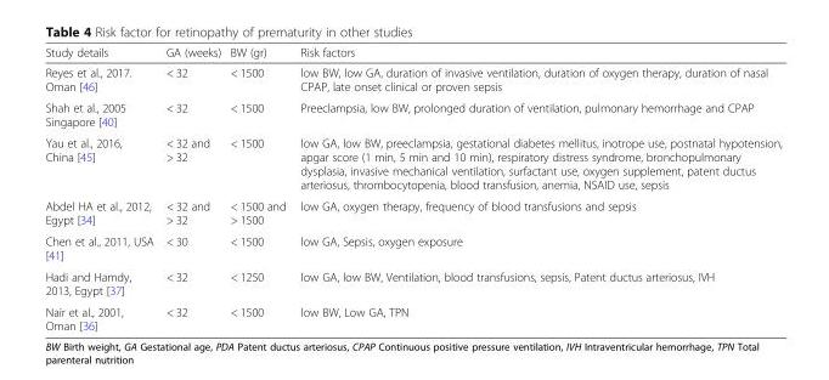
<table><thead><tr><td>Study details</td><td>GA (weeks)</td><td>BW (gr)</td><td>Risk factors</td></tr></thead><tbody><tr><td>Reyes et al., 2017. Oman [46]</td><td>&lt; 32</td><td>&lt; 1500</td><td>low BW, low GA, duration of invasive ventilation, duration of oxygen therapy, duration of nasal CPAP, late onset clinical or proven sepsis</td></tr><tr><td>Shah et al., 2005 Singapore [40]</td><td>&lt; 32</td><td>&lt; 1500</td><td>Preeclampsia, low BW, prolonged duration of ventilation, pulmonary hemorrhage and CPAP</td></tr><tr><td>Yau et al., 2016, China [45]</td><td>&lt; 32 and &gt; 32</td><td>&lt; 1500</td><td>low GA, low BW, preeclampsia, gestational diabetes mellitus, inotrope use, postnatal hypotension, apgar score (1 min, 5 min and 10 min), respiratory distress syndrome, bronchopulmonary dysplasia, invasive mechanical ventilation, surfactant use, oxygen supplement, patent ductus arteriosus, thrombocytopenia, blood transfusion, anemia, NSAID use, sepsis</td></tr><tr><td>Abdel HA et al., 2012, Egypt [34]</td><td>&lt; 32 and &gt; 32</td><td>&lt; 1500 and &gt; 1500</td><td>low GA, oxygen therapy, frequency of blood transfusions and sepsis</td></tr><tr><td>Chen et al., 2011, USA [41]</td><td>&lt; 30</td><td>&lt; 1500</td><td>low GA, Sepsis, oxygen exposure</td></tr><tr><td>Hadi and Hamdy, 2013, Egypt [37]</td><td>&lt; 32</td><td>&lt; 1250</td><td>low GA, low BW, Ventilation, blood transfusions, sepsis, Patent ductus arteriosus, IVH</td></tr><tr><td>Nair et al., 2001, Oman [36]</td><td>&lt; 32</td><td>&lt; 1500</td><td>low BW, Low GA, TPN</td></tr></tbody></table>